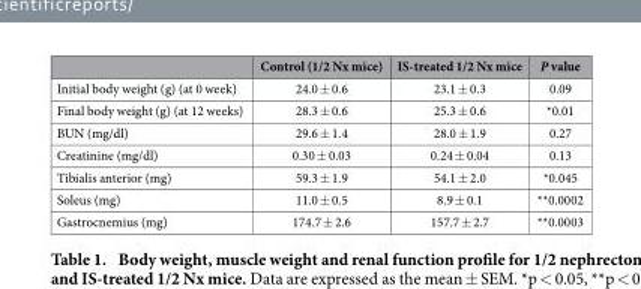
<table><thead><tr><td></td><td>Control (1/2 Nx mice)</td><td>IS-treated 1/2 Nx mice</td><td>P value</td></tr></thead><tbody><tr><td>Initial body weight (g) (at 0 week)</td><td>24.0 ± 0.6</td><td>23.1 ± 0.3</td><td>0.09</td></tr><tr><td>Final body weight (g) (at 12 weeks)</td><td>28.3 ± 0.6</td><td>25.3 ± 0.6</td><td>*0.01</td></tr><tr><td>BUN (mg/dl)</td><td>29.6 ± 1.4</td><td>28.0 ± 1.9</td><td>0.27</td></tr><tr><td>Creatinine (mg/dl)</td><td>0.30 ± 0.03</td><td>0.24 ± 0.04</td><td>0.13</td></tr><tr><td>Tibialis anterior (mg)</td><td>59.3 ± 1.9</td><td>54.1 ± 2.0</td><td>*0.045</td></tr><tr><td>Soleus (mg)</td><td>11.0 ± 0.5</td><td>8.9 ± 0.1</td><td>**0.0002</td></tr><tr><td>Gastrocnemius (mg)</td><td>174.7 ± 2.6</td><td>157.7 ± 2.7</td><td>**0.0003</td></tr></tbody></table>